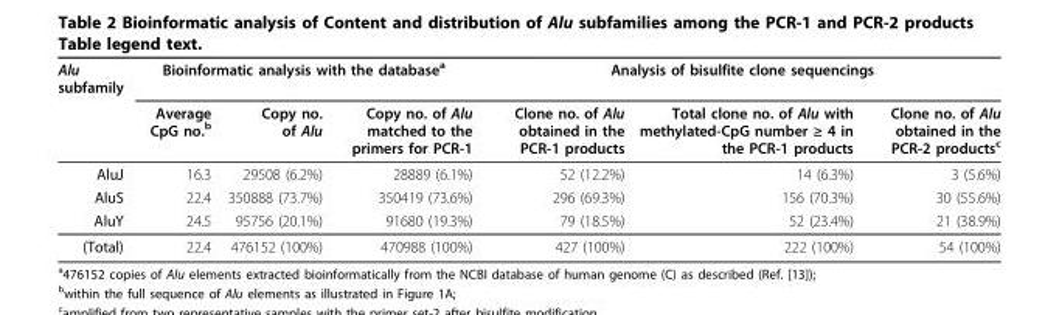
<table><thead><tr><td rowspan="2">Alu subfamily</td><td colspan="3">Bioinformatic analysis with the database<sup>a</sup></td><td colspan="3">Analysis of bisulfite clone sequencings</td></tr><tr><td>Average CpG no.<sup>b</sup></td><td>Copy no. of Alu</td><td>Copy no. of Alu matched to the primers for PCR-1</td><td>Clone no. of Alu obtained in the PCR-1 products</td><td>Total clone no. of Alu with methylated-CpG number ≥ 4 in the PCR-1 products</td><td>Clone no. of Alu obtained in the PCR-2 products<sup>c</sup></td></tr></thead><tbody><tr><td>AluJ</td><td>16.3</td><td>29508 (6.2%)</td><td>28889 (6.1%)</td><td>52 (12.2%)</td><td>14 (6.3%)</td><td>3 (5.6%)</td></tr><tr><td>AluS</td><td>22.4</td><td>350888 (73.7%)</td><td>350419 (73.6%)</td><td>296 (69.3%)</td><td>156 (70.3%)</td><td>30 (55.6%)</td></tr><tr><td>AluY</td><td>24.5</td><td>95756 (20.1%)</td><td>91680 (19.3%)</td><td>79 (18.5%)</td><td>52 (23.4%)</td><td>21 (38.9%)</td></tr><tr><td>(Total)</td><td>22.4</td><td>476152 (100%)</td><td>470988 (100%)</td><td>427 (100%)</td><td>222 (100%)</td><td>54 (100%)</td></tr></tbody></table>